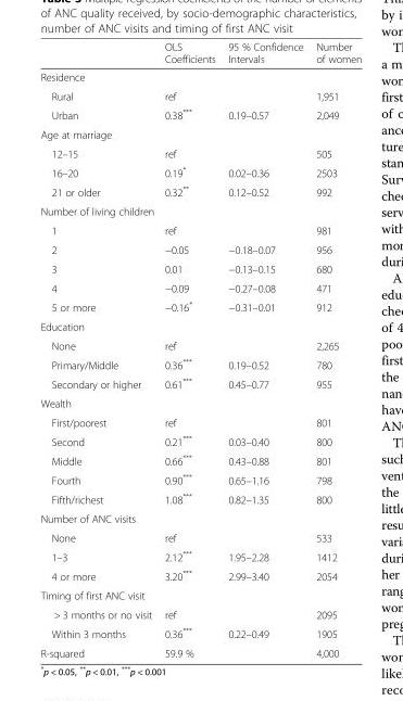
<table><thead><tr><td></td><td>OLS Coefficients</td><td>95 % Confidence Intervals</td><td>Number of women</td></tr></thead><tbody><tr><td colspan="4">Residence</td></tr><tr><td>Rural</td><td>ref</td><td></td><td>1,951</td></tr><tr><td>Urban</td><td>0.38***</td><td>0.19–0.57</td><td>2,049</td></tr><tr><td colspan="4">Age at marriage</td></tr><tr><td>12–15</td><td>ref</td><td></td><td>505</td></tr><tr><td>16–20</td><td>0.19*</td><td>0.02–0.36</td><td>2503</td></tr><tr><td>21 or older</td><td>0.32**</td><td>0.12–0.52</td><td>992</td></tr><tr><td colspan="4">Number of living children</td></tr><tr><td>1</td><td>ref</td><td></td><td>981</td></tr><tr><td>2</td><td>−0.05</td><td>−0.18–0.07</td><td>956</td></tr><tr><td>3</td><td>0.01</td><td>−0.13–0.15</td><td>680</td></tr><tr><td>4</td><td>−0.09</td><td>−0.27–0.08</td><td>471</td></tr><tr><td>5 or more</td><td>−0.16*</td><td>−0.31–0.01</td><td>912</td></tr><tr><td colspan="4">Education</td></tr><tr><td>None</td><td>ref</td><td></td><td>2,265</td></tr><tr><td>Primary/Middle</td><td>0.36***</td><td>0.19–0.52</td><td>780</td></tr><tr><td>Secondary or higher</td><td>0.61***</td><td>0.45–0.77</td><td>955</td></tr><tr><td colspan="4">Wealth</td></tr><tr><td>First/poorest</td><td>ref</td><td></td><td>801</td></tr><tr><td>Second</td><td>0.21***</td><td>0.03–0.40</td><td>800</td></tr><tr><td>Middle</td><td>0.66***</td><td>0.43–0.88</td><td>801</td></tr><tr><td>Fourth</td><td>0.90***</td><td>0.65–1.16</td><td>798</td></tr><tr><td>Fifth/richest</td><td>1.08***</td><td>0.82–1.35</td><td>800</td></tr><tr><td colspan="4">Number of ANC visits</td></tr><tr><td>None</td><td>ref</td><td></td><td>533</td></tr><tr><td>1–3</td><td>2.12***</td><td>1.95–2.28</td><td>1412</td></tr><tr><td>4 or more</td><td>3.20***</td><td>2.99–3.40</td><td>2054</td></tr><tr><td colspan="4">Timing of first ANC visit</td></tr><tr><td>&gt; 3 months or no visit</td><td>ref</td><td></td><td>2095</td></tr><tr><td>Within 3 months</td><td>0.36***</td><td>0.22–0.49</td><td>1905</td></tr><tr><td>R-squared</td><td>59.9 %</td><td></td><td>4,000</td></tr></tbody></table>